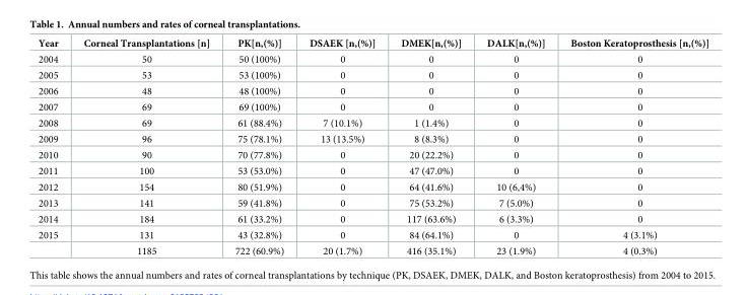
<table><thead><tr><td>Year</td><td>Corneal Transplantations [n]</td><td>PK[n,(%)]</td><td>DSAEK [n,(%)]</td><td>DMEK[n,(%)]</td><td>DALK[n,(%)]</td><td>Boston Keratoprosthesis [n,(%)]</td></tr></thead><tbody><tr><td>2004</td><td>50</td><td>50 (100%)</td><td>0</td><td>0</td><td>0</td><td>0</td></tr><tr><td>2005</td><td>53</td><td>53 (100%)</td><td>0</td><td>0</td><td>0</td><td>0</td></tr><tr><td>2006</td><td>48</td><td>48 (100%)</td><td>0</td><td>0</td><td>0</td><td>0</td></tr><tr><td>2007</td><td>69</td><td>69 (100%)</td><td>0</td><td>0</td><td>0</td><td>0</td></tr><tr><td>2008</td><td>69</td><td>61 (88.4%)</td><td>7 (10.1%)</td><td>1 (1.4%)</td><td>0</td><td>0</td></tr><tr><td>2009</td><td>96</td><td>75 (78.1%)</td><td>13 (13.5%)</td><td>8 (8.3%)</td><td>0</td><td>0</td></tr><tr><td>2010</td><td>90</td><td>70 (77.8%)</td><td>0</td><td>20 (22.2%)</td><td>0</td><td>0</td></tr><tr><td>2011</td><td>100</td><td>53 (53.0%)</td><td>0</td><td>47 (47.0%)</td><td>0</td><td>0</td></tr><tr><td>2012</td><td>154</td><td>80 (51.9%)</td><td>0</td><td>64 (41.6%)</td><td>10 (6,4%)</td><td>0</td></tr><tr><td>2013</td><td>141</td><td>59 (41.8%)</td><td>0</td><td>75 (53.2%)</td><td>7 (5.0%)</td><td>0</td></tr><tr><td>2014</td><td>184</td><td>61 (33.2%)</td><td>0</td><td>117 (63.6%)</td><td>6 (3.3%)</td><td>0</td></tr><tr><td rowspan="2">2015</td><td>131</td><td>43 (32.8%)</td><td>0</td><td>84 (64.1%)</td><td>0</td><td>4 (3.1%)</td></tr><tr><td>1185</td><td>722 (60.9%)</td><td>20 (1.7%)</td><td>416 (35.1%)</td><td>23 (1.9%)</td><td>4 (0.3%)</td></tr></tbody></table>